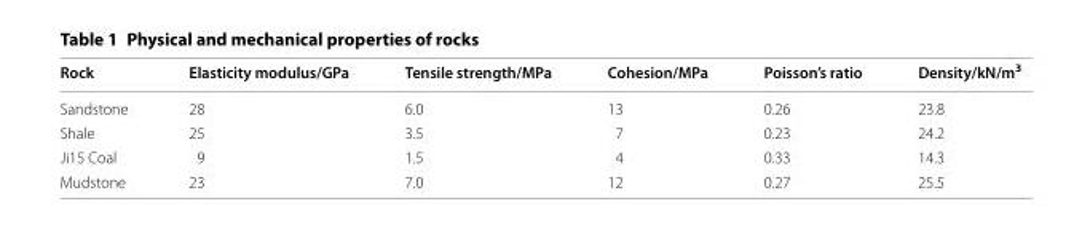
<table><thead><tr><td>Rock</td><td>Elasticity modulus/GPa</td><td>Tensile strength/MPa</td><td>Cohesion/MPa</td><td>Poisson’s ratio</td><td>Density/kN/m<sup>3</sup></td></tr></thead><tbody><tr><td>Sandstone</td><td>28</td><td>6.0</td><td>13</td><td>0.26</td><td>23.8</td></tr><tr><td>Shale</td><td>25</td><td>3.5</td><td>7</td><td>0.23</td><td>24.2</td></tr><tr><td>Ji15 Coal</td><td>9</td><td>1.5</td><td>4</td><td>0.33</td><td>14.3</td></tr><tr><td>Mudstone</td><td>23</td><td>7.0</td><td>12</td><td>0.27</td><td>25.5</td></tr></tbody></table>